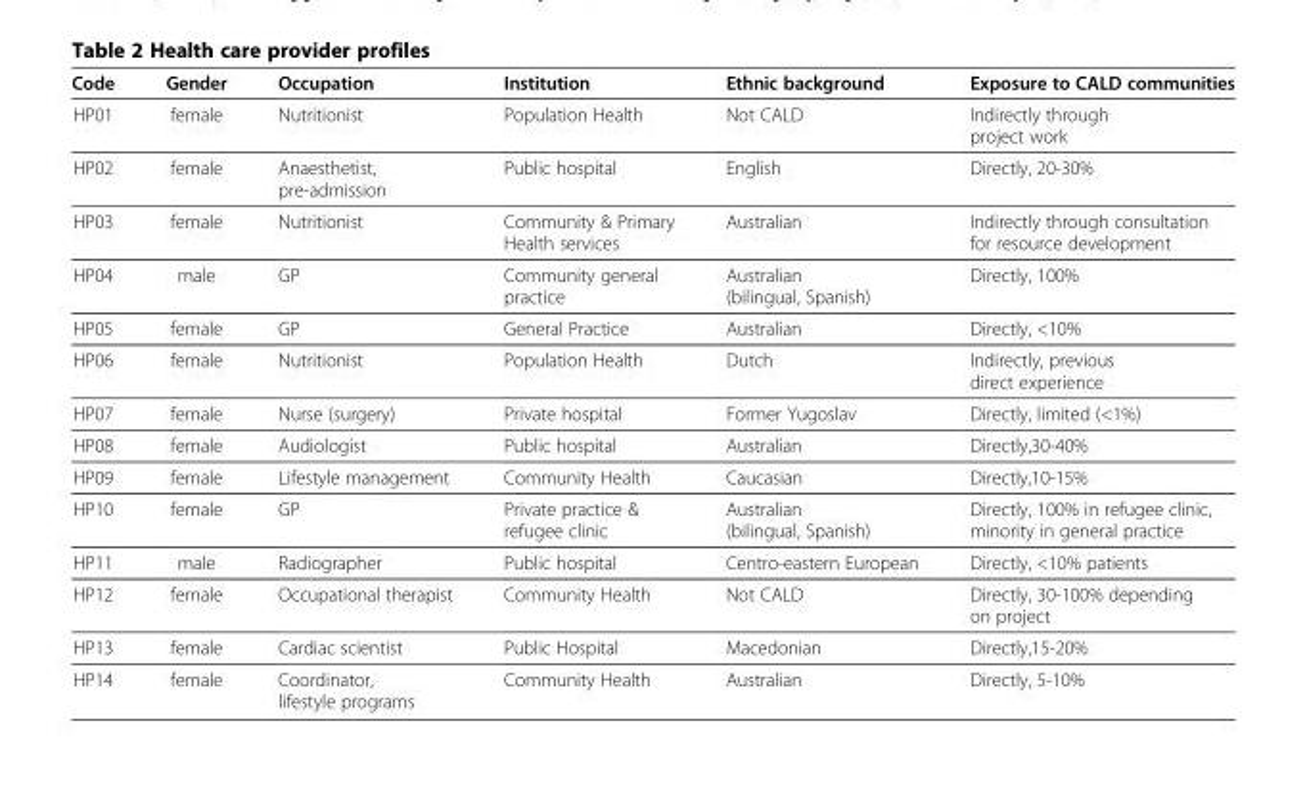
<table><thead><tr><td>Code</td><td>Gender</td><td>Occupation</td><td>Institution</td><td>Ethnic background</td><td>Exposure to CALD communities</td></tr></thead><tbody><tr><td>HP01</td><td>female</td><td>Nutritionist</td><td>Population Health</td><td>Not CALD</td><td>Indirectly through project work</td></tr><tr><td>HP02</td><td>female</td><td>Anaesthetist, pre-admission</td><td>Public hospital</td><td>English</td><td>Directly, 20-30%</td></tr><tr><td>HP03</td><td>female</td><td>Nutritionist</td><td>Community &amp; Primary Health services</td><td>Australian</td><td>Indirectly through consultation for resource development</td></tr><tr><td>HP04</td><td>male</td><td>GP</td><td>Community general practice</td><td>Australian (bilingual, Spanish)</td><td>Directly, 100%</td></tr><tr><td>HP05</td><td>female</td><td>GP</td><td>General Practice</td><td>Australian</td><td>Directly, &lt;10%</td></tr><tr><td>HP06</td><td>female</td><td>Nutritionist</td><td>Population Health</td><td>Dutch</td><td>Indirectly, previous direct experience</td></tr><tr><td>HP07</td><td>female</td><td>Nurse (surgery)</td><td>Private hospital</td><td>Former Yugoslav</td><td>Directly, limited (&lt;1%)</td></tr><tr><td>HP08</td><td>female</td><td>Audiologist</td><td>Public hospital</td><td>Australian</td><td>Directly,30-40%</td></tr><tr><td>HP09</td><td>female</td><td>Lifestyle management</td><td>Community Health</td><td>Caucasian</td><td>Directly,10-15%</td></tr><tr><td>HP10</td><td>female</td><td>GP</td><td>Private practice &amp; refugee clinic</td><td>Australian (bilingual, Spanish)</td><td>Directly, 100% in refugee clinic, minority in general practice</td></tr><tr><td>HP11</td><td>male</td><td>Radiographer</td><td>Public hospital</td><td>Centro-eastern European</td><td>Directly, &lt;10% patients</td></tr><tr><td>HP12</td><td>female</td><td>Occupational therapist</td><td>Community Health</td><td>Not CALD</td><td>Directly, 30-100% depending on project</td></tr><tr><td>HP13</td><td>female</td><td>Cardiac scientist</td><td>Public Hospital</td><td>Macedonian</td><td>Directly,15-20%</td></tr><tr><td>HP14</td><td>female</td><td>Coordinator, lifestyle programs</td><td>Community Health</td><td>Australian</td><td>Directly, 5-10%</td></tr></tbody></table>